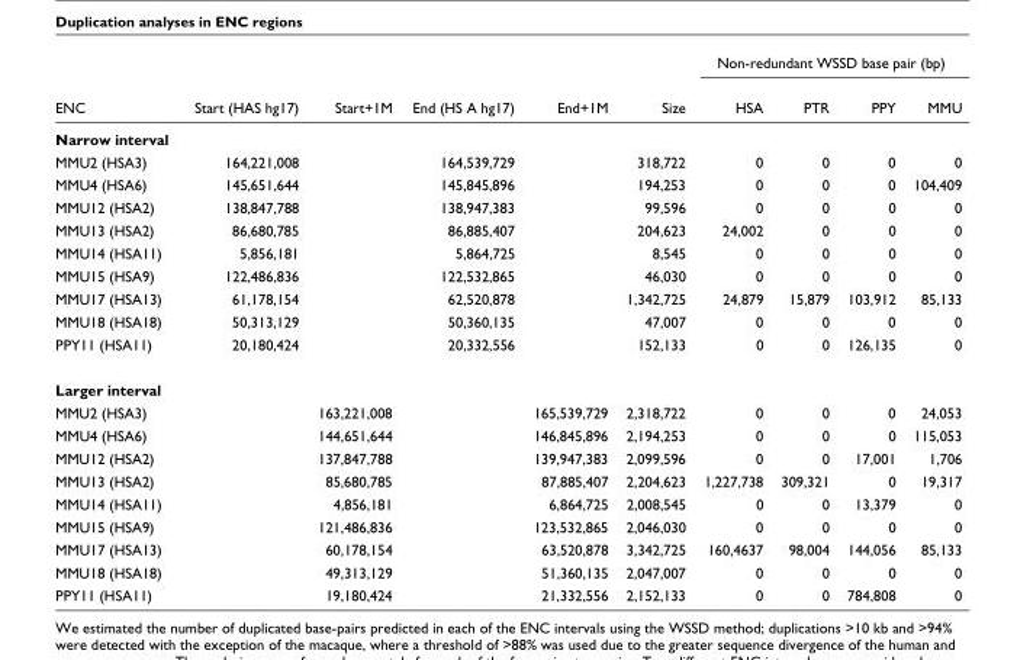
<table><thead><tr><td rowspan="2">ENC</td><td rowspan="2">Start (HAS hg17)</td><td rowspan="2">Start+1M</td><td rowspan="2">End (HS A hg17)</td><td rowspan="2">End+1M</td><td rowspan="2">Size</td><td colspan="4">Non-redundant WSSD base pair (bp)</td></tr><tr><td>HSA</td><td>PTR</td><td>PPY</td><td>MMU</td></tr></thead><tbody><tr><td colspan="10">Narrow interval</td></tr><tr><td>MMU2 (HSA3)</td><td>164,221,008</td><td></td><td>164,539,729</td><td></td><td>318,722</td><td>0</td><td>0</td><td>0</td><td>0</td></tr><tr><td>MMU4 (HSA6)</td><td>145,651,644</td><td></td><td>145,845,896</td><td></td><td>194,253</td><td>0</td><td>0</td><td>0</td><td>104,409</td></tr><tr><td>MMU12 (HSA2)</td><td>138,847,788</td><td></td><td>138,947,383</td><td></td><td>99,596</td><td>0</td><td>0</td><td>0</td><td>0</td></tr><tr><td>MMU13 (HSA2)</td><td>86,680,785</td><td></td><td>86,885,407</td><td></td><td>204,623</td><td>24,002</td><td>0</td><td>0</td><td>0</td></tr><tr><td>MMU14 (HSA11)</td><td>5,856,181</td><td></td><td>5,864,725</td><td></td><td>8,545</td><td>0</td><td>0</td><td>0</td><td>0</td></tr><tr><td>MMU15 (HSA9)</td><td>122,486,836</td><td></td><td>122,532,865</td><td></td><td>46,030</td><td>0</td><td>0</td><td>0</td><td>0</td></tr><tr><td>MMU17 (HSA13)</td><td>61,178,154</td><td></td><td>62,520,878</td><td></td><td>1,342,725</td><td>24,879</td><td>15,879</td><td>103,912</td><td>85,133</td></tr><tr><td>MMU18 (HSA18)</td><td>50,313,129</td><td></td><td>50,360,135</td><td></td><td>47,007</td><td>0</td><td>0</td><td>0</td><td>0</td></tr><tr><td>PPY11 (HSA11)</td><td>20,180,424</td><td></td><td>20,332,556</td><td></td><td>152,133</td><td>0</td><td>0</td><td>126,135</td><td>0</td></tr><tr><td colspan="10">Larger interval</td></tr><tr><td>MMU2 (HSA3)</td><td></td><td>163,221,008</td><td></td><td>165,539,729</td><td>2,318,722</td><td>0</td><td>0</td><td>0</td><td>24,053</td></tr><tr><td>MMU4 (HSA6)</td><td></td><td>144,651,644</td><td></td><td>146,845,896</td><td>2,194,253</td><td>0</td><td>0</td><td>0</td><td>115,053</td></tr><tr><td>MMU12 (HSA2)</td><td></td><td>137,847,788</td><td></td><td>139,947,383</td><td>2,099,596</td><td>0</td><td>0</td><td>17,001</td><td>1,706</td></tr><tr><td>MMU13 (HSA2)</td><td></td><td>85,680,785</td><td></td><td>87,885,407</td><td>2,204,623</td><td>1,227,738</td><td>309,321</td><td>0</td><td>19,317</td></tr><tr><td>MMU14 (HSA11)</td><td></td><td>4,856,181</td><td></td><td>6,864,725</td><td>2,008,545</td><td>0</td><td>0</td><td>13,379</td><td>0</td></tr><tr><td>MMU15 (HSA9)</td><td></td><td>121,486,836</td><td></td><td>123,532,865</td><td>2,046,030</td><td>0</td><td>0</td><td>0</td><td>0</td></tr><tr><td>MMU17 (HSA13)</td><td></td><td>60,178,154</td><td></td><td>63,520,878</td><td>3,342,725</td><td>160,4637</td><td>98,004</td><td>144,056</td><td>85,133</td></tr><tr><td>MMU18 (HSA18)</td><td></td><td>49,313,129</td><td></td><td>51,360,135</td><td>2,047,007</td><td>0</td><td>0</td><td>0</td><td>0</td></tr><tr><td>PPY11 (HSA11)</td><td></td><td>19,180,424</td><td></td><td>21,332,556</td><td>2,152,133</td><td>0</td><td>0</td><td>784,808</td><td>0</td></tr></tbody></table>